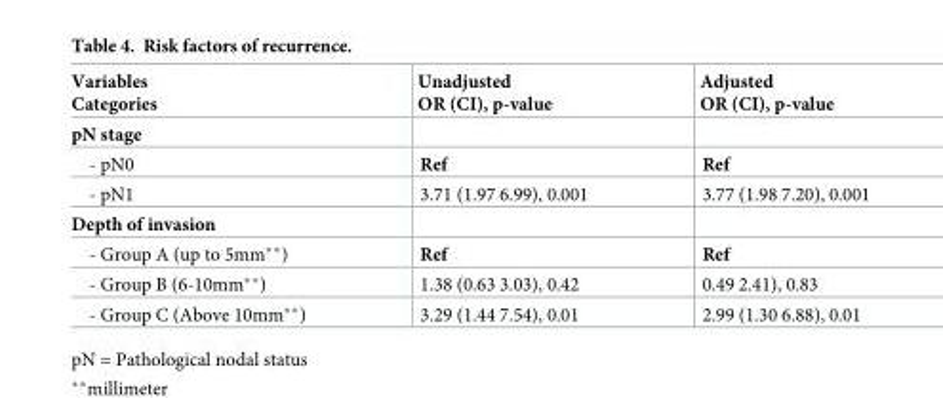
<table><thead><tr><td>Variables Categories</td><td>Unadjusted OR (CI), p-value</td><td>Adjusted OR (CI), p-value</td></tr></thead><tbody><tr><td colspan="3">pN stage</td></tr><tr><td>- pN0</td><td>Ref</td><td>Ref</td></tr><tr><td>- pN1</td><td>3.71 (1.97 6.99), 0.001</td><td>3.77 (1.98 7.20), 0.001</td></tr><tr><td colspan="3">Depth of invasion</td></tr><tr><td>- Group A (up to 5mm**)</td><td>Ref</td><td>Ref</td></tr><tr><td>- Group B (6-10mm**)</td><td>1.38 (0.63 3.03), 0.42</td><td>0.49 2.41), 0.83</td></tr><tr><td>- Group C (Above 10mm**)</td><td>3.29 (1.44 7.54), 0.01</td><td>2.99 (1.30 6.88), 0.01</td></tr></tbody></table>